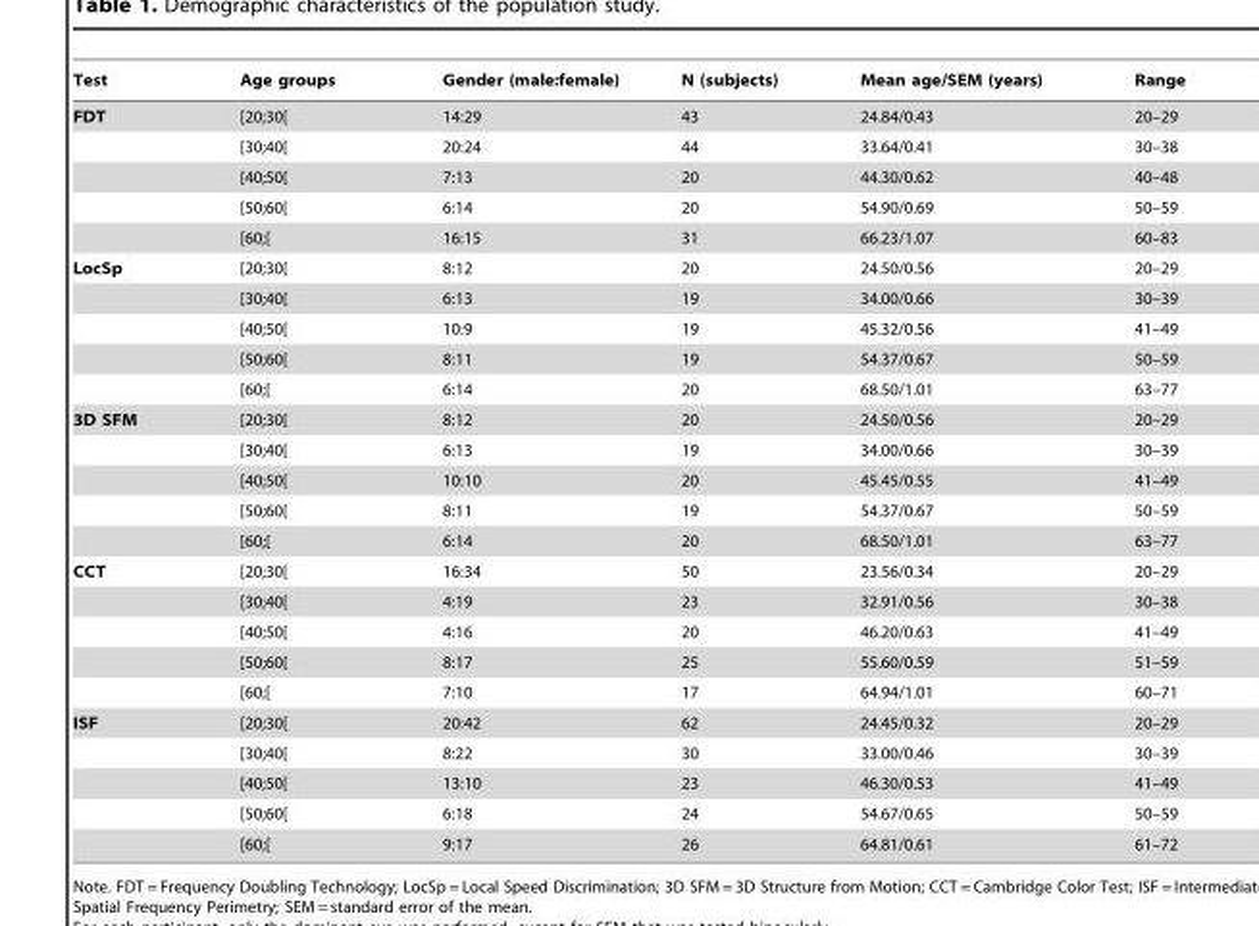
<table><thead><tr><td>Test</td><td>Age groups</td><td>Gender (male:female)</td><td>N (subjects)</td><td>Mean age/SEM (years)</td><td>Range</td></tr></thead><tbody><tr><td rowspan="5">FDT</td><td>[20;30[</td><td>14:29</td><td>43</td><td>24.84/0.43</td><td>20–29</td></tr><tr><td>[30;40[</td><td>20:24</td><td>44</td><td>33.64/0.41</td><td>30–38</td></tr><tr><td>[40;50[</td><td>7:13</td><td>20</td><td>44.30/0.62</td><td>40–48</td></tr><tr><td>[50;60[</td><td>6:14</td><td>20</td><td>54.90/0.69</td><td>50–59</td></tr><tr><td>[60;[</td><td>16:15</td><td>31</td><td>66.23/1.07</td><td>60–83</td></tr><tr><td rowspan="5">LocSp</td><td>[20;30[</td><td>8:12</td><td>20</td><td>24.50/0.56</td><td>20–29</td></tr><tr><td>[30;40[</td><td>6:13</td><td>19</td><td>34.00/0.66</td><td>30–39</td></tr><tr><td>[40;50[</td><td>10:9</td><td>19</td><td>45.32/0.56</td><td>41–49</td></tr><tr><td>[50;60[</td><td>8:11</td><td>19</td><td>54.37/0.67</td><td>50–59</td></tr><tr><td>[60;[</td><td>6:14</td><td>20</td><td>68.50/1.01</td><td>63–77</td></tr><tr><td rowspan="5">3D SFM</td><td>[20;30[</td><td>8:12</td><td>20</td><td>24.50/0.56</td><td>20–29</td></tr><tr><td>[30;40[</td><td>6:13</td><td>19</td><td>34.00/0.66</td><td>30–39</td></tr><tr><td>[40;50[</td><td>10:10</td><td>20</td><td>45.45/0.55</td><td>41–49</td></tr><tr><td>[50;60[</td><td>8:11</td><td>19</td><td>54.37/0.67</td><td>50–59</td></tr><tr><td>[60;[</td><td>6:14</td><td>20</td><td>68.50/1.01</td><td>63–77</td></tr><tr><td rowspan="5">CCT</td><td>[20;30[</td><td>16:34</td><td>50</td><td>23.56/0.34</td><td>20–29</td></tr><tr><td>[30;40[</td><td>4:19</td><td>23</td><td>32.91/0.56</td><td>30–38</td></tr><tr><td>[40;50[</td><td>4:16</td><td>20</td><td>46.20/0.63</td><td>41–49</td></tr><tr><td>[50;60[</td><td>8:17</td><td>25</td><td>55.60/0.59</td><td>51–59</td></tr><tr><td>[60;[</td><td>7:10</td><td>17</td><td>64.94/1.01</td><td>60–71</td></tr><tr><td rowspan="5">ISF</td><td>[20;30[</td><td>20:42</td><td>62</td><td>24.45/0.32</td><td>20–29</td></tr><tr><td>[30;40[</td><td>8:22</td><td>30</td><td>33.00/0.46</td><td>30–39</td></tr><tr><td>[40;50[</td><td>13:10</td><td>23</td><td>46.30/0.53</td><td>41–49</td></tr><tr><td>[50;60[</td><td>6:18</td><td>24</td><td>54.67/0.65</td><td>50–59</td></tr><tr><td>[60;[</td><td>9:17</td><td>26</td><td>64.81/0.61</td><td>61–72</td></tr></tbody></table>